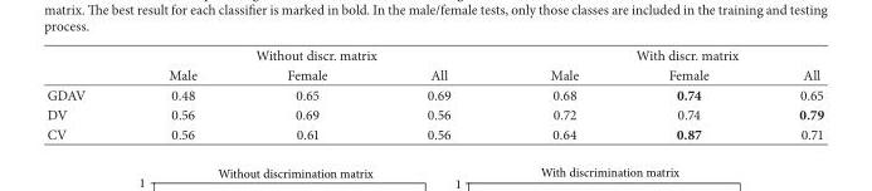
<table><thead><tr><td rowspan="2"></td><td colspan="3">Without discr. matrix</td><td colspan="3">With discr. matrix</td></tr><tr><td>Male</td><td>Female</td><td>All</td><td>Male</td><td>Female</td><td>All</td></tr></thead><tbody><tr><td>GDAV</td><td>0.48</td><td>0.65</td><td>0.69</td><td>0.68</td><td>0.74</td><td>0.65</td></tr><tr><td>DV</td><td>0.56</td><td>0.69</td><td>0.56</td><td>0.72</td><td>0.74</td><td>0.79</td></tr><tr><td>CV</td><td>0.56</td><td>0.61</td><td>0.56</td><td>0.64</td><td>0.87</td><td>0.71</td></tr></tbody></table>